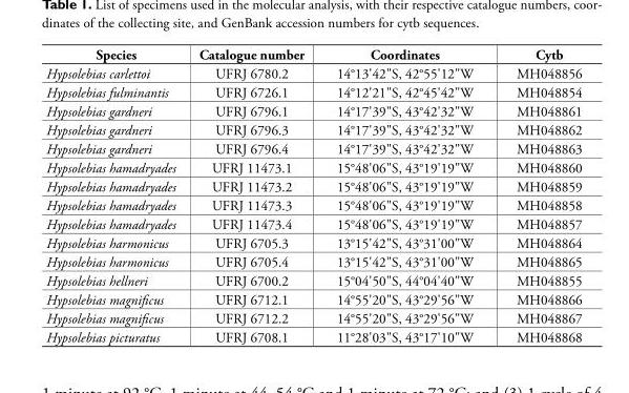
<table><thead><tr><td>Species</td><td>Catalogue number</td><td>Coordinates</td><td>Cytb</td></tr></thead><tbody><tr><td>Hypsolebias carlettoi</td><td>UFRJ 6780.2</td><td>14°13&#x27;42&quot;S, 42°55&#x27;12&quot;W</td><td>MH048856</td></tr><tr><td>Hypsolebias fulminantis</td><td>UFRJ 6726.1</td><td>14°12&#x27;21&quot;S, 42°45&#x27;42&quot;W</td><td>MH048854</td></tr><tr><td>Hypsolebias gardneri</td><td>UFRJ 6796.1</td><td>14°17&#x27;39&quot;S, 43°42&#x27;32&quot;W</td><td>MH048861</td></tr><tr><td>Hypsolebias gardneri</td><td>UFRJ 6796.3</td><td>14°17&#x27;39&quot;S, 43°42&#x27;32&quot;W</td><td>MH048862</td></tr><tr><td>Hypsolebias gardneri</td><td>UFRJ 6796.4</td><td>14°17&#x27;39&quot;S, 43°42&#x27;32&quot;W</td><td>MH048863</td></tr><tr><td>Hypsolebias hamadryades</td><td>UFRJ 11473.1</td><td>15°48&#x27;06&quot;S, 43°19&#x27;19&quot;W</td><td>MH048860</td></tr><tr><td>Hypsolebias hamadryades</td><td>UFRJ 11473.2</td><td>15°48&#x27;06&quot;S, 43°19&#x27;19&quot;W</td><td>MH048859</td></tr><tr><td>Hypsolebias hamadryades</td><td>UFRJ 11473.3</td><td>15°48&#x27;06&quot;S, 43°19&#x27;19&quot;W</td><td>MH048858</td></tr><tr><td>Hypsolebias hamadryades</td><td>UFRJ 11473.4</td><td>15°48&#x27;06&quot;S, 43°19&#x27;19&quot;W</td><td>MH048857</td></tr><tr><td>Hypsolebias harmonicus</td><td>UFRJ 6705.3</td><td>13°15&#x27;42&quot;S, 43°31&#x27;00&quot;W</td><td>MH048864</td></tr><tr><td>Hypsolebias harmonicus</td><td>UFRJ 6705.4</td><td>13°15&#x27;42&quot;S, 43°31&#x27;00&quot;W</td><td>MH048865</td></tr><tr><td>Hypsolebias hellneri</td><td>UFRJ 6700.2</td><td>15°04&#x27;50&quot;S, 44°04&#x27;40&quot;W</td><td>MH048855</td></tr><tr><td>Hypsolebias magnificus</td><td>UFRJ 6712.1</td><td>14°55&#x27;20&quot;S, 43°29&#x27;56&quot;W</td><td>MH048866</td></tr><tr><td>Hypsolebias magnificus</td><td>UFRJ 6712.2</td><td>14°55&#x27;20&quot;S, 43°29&#x27;56&quot;W</td><td>MH048867</td></tr><tr><td>Hypsolebias picturatus</td><td>UFRJ 6708.1</td><td>11°28&#x27;03&quot;S, 43°17&#x27;10&quot;W</td><td>MH048868</td></tr></tbody></table>